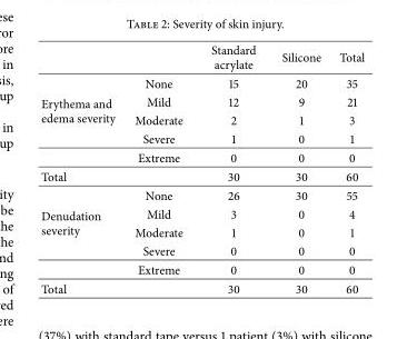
<table><thead><tr><td></td><td></td><td>Standard acrylate</td><td>Silicone</td><td>Total</td></tr></thead><tbody><tr><td rowspan="5">Erythema and edema severity</td><td>None</td><td>15</td><td>20</td><td>35</td></tr><tr><td>Mild</td><td>12</td><td>9</td><td>21</td></tr><tr><td>Moderate</td><td>2</td><td>1</td><td>3</td></tr><tr><td>Severe</td><td>1</td><td>0</td><td>1</td></tr><tr><td>Extreme</td><td>0</td><td>0</td><td>0</td></tr><tr><td>Total</td><td></td><td>30</td><td>30</td><td>60</td></tr><tr><td rowspan="5">Denudation severity</td><td>None</td><td>26</td><td>30</td><td>55</td></tr><tr><td>Mild</td><td>3</td><td>0</td><td>4</td></tr><tr><td>Moderate</td><td>1</td><td>0</td><td>1</td></tr><tr><td>Severe</td><td>0</td><td>0</td><td>0</td></tr><tr><td>Extreme</td><td>0</td><td>0</td><td>0</td></tr><tr><td>Total</td><td></td><td>30</td><td>30</td><td>60</td></tr></tbody></table>